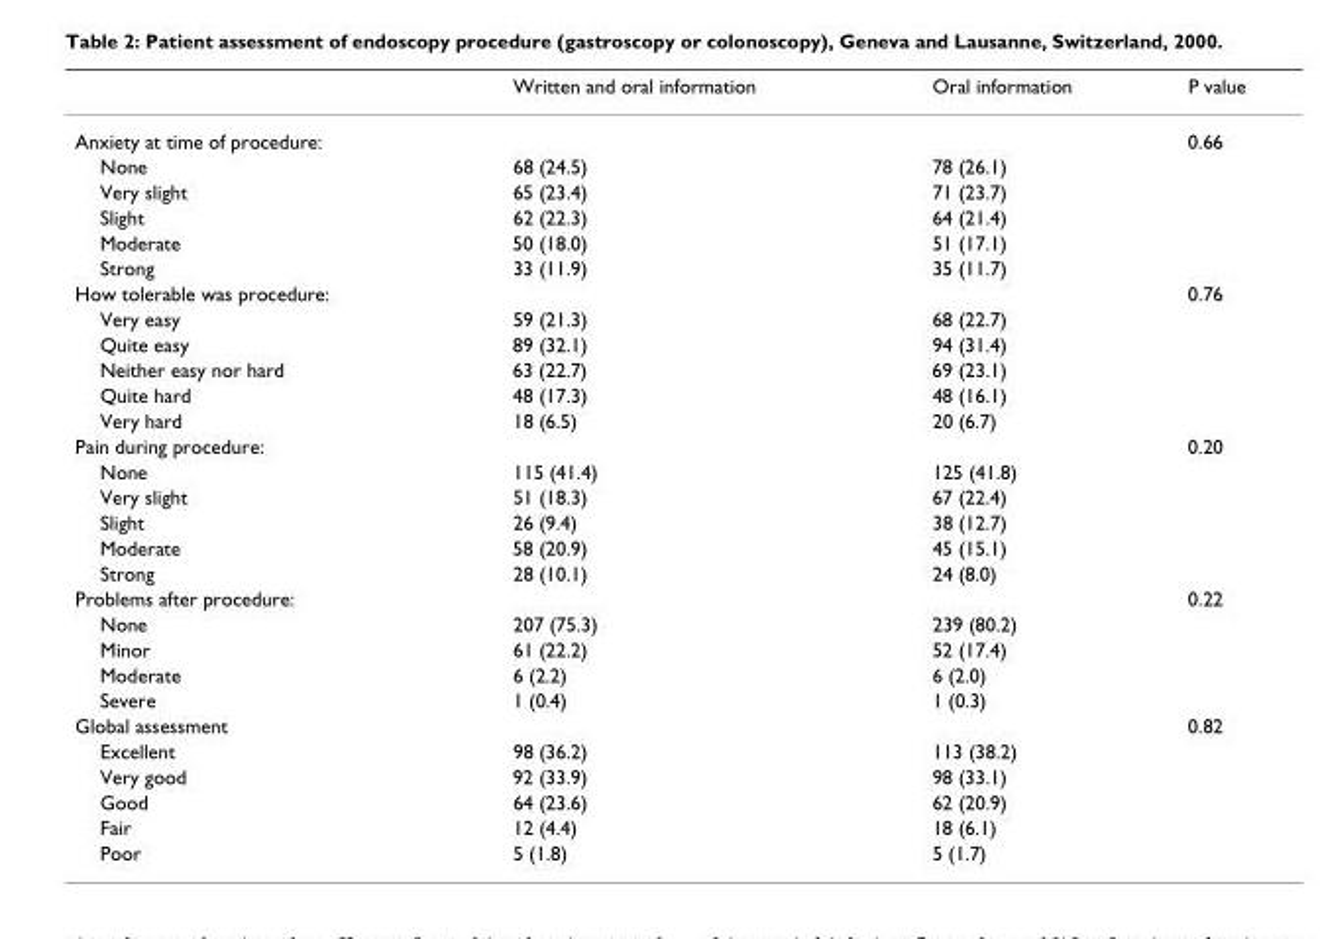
<table><thead><tr><td></td><td>Written and oral information</td><td>Oral information</td><td>P value</td></tr></thead><tbody><tr><td>Anxiety at time of procedure:</td><td></td><td></td><td>0.66</td></tr><tr><td>None</td><td>68 (24.5)</td><td>78 (26.1)</td><td></td></tr><tr><td>Very slight</td><td>65 (23.4)</td><td>71 (23.7)</td><td></td></tr><tr><td>Slight</td><td>62 (22.3)</td><td>64 (21.4)</td><td></td></tr><tr><td>Moderate</td><td>50 (18.0)</td><td>51 (17.1)</td><td></td></tr><tr><td>Strong</td><td>33 (11.9)</td><td>35 (11.7)</td><td></td></tr><tr><td>How tolerable was procedure:</td><td></td><td></td><td>0.76</td></tr><tr><td>Very easy</td><td>59 (21.3)</td><td>68 (22.7)</td><td></td></tr><tr><td>Quite easy</td><td>89 (32.1)</td><td>94 (31.4)</td><td></td></tr><tr><td>Neither easy nor hard</td><td>63 (22.7)</td><td>69 (23.1)</td><td></td></tr><tr><td>Quite hard</td><td>48 (17.3)</td><td>48 (16.1)</td><td></td></tr><tr><td>Very hard</td><td>18 (6.5)</td><td>20 (6.7)</td><td></td></tr><tr><td>Pain during procedure:</td><td></td><td></td><td>0.20</td></tr><tr><td>None</td><td>115 (41.4)</td><td>125 (41.8)</td><td></td></tr><tr><td>Very slight</td><td>51 (18.3)</td><td>67 (22.4)</td><td></td></tr><tr><td>Slight</td><td>26 (9.4)</td><td>38 (12.7)</td><td></td></tr><tr><td>Moderate</td><td>58 (20.9)</td><td>45 (15.1)</td><td></td></tr><tr><td>Strong</td><td>28 (10.1)</td><td>24 (8.0)</td><td></td></tr><tr><td>Problems after procedure:</td><td></td><td></td><td>0.22</td></tr><tr><td>None</td><td>207 (75.3)</td><td>239 (80.2)</td><td></td></tr><tr><td>Minor</td><td>61 (22.2)</td><td>52 (17.4)</td><td></td></tr><tr><td>Moderate</td><td>6 (2.2)</td><td>6 (2.0)</td><td></td></tr><tr><td>Severe</td><td>1 (0.4)</td><td>1 (0.3)</td><td></td></tr><tr><td>Global assessment</td><td></td><td></td><td>0.82</td></tr><tr><td>Excellent</td><td>98 (36.2)</td><td>113 (38.2)</td><td></td></tr><tr><td>Very good</td><td>92 (33.9)</td><td>98 (33.1)</td><td></td></tr><tr><td>Good</td><td>64 (23.6)</td><td>62 (20.9)</td><td></td></tr><tr><td>Fair</td><td>12 (4.4)</td><td>18 (6.1)</td><td></td></tr><tr><td>Poor</td><td>5 (1.8)</td><td>5 (1.7)</td><td></td></tr></tbody></table>